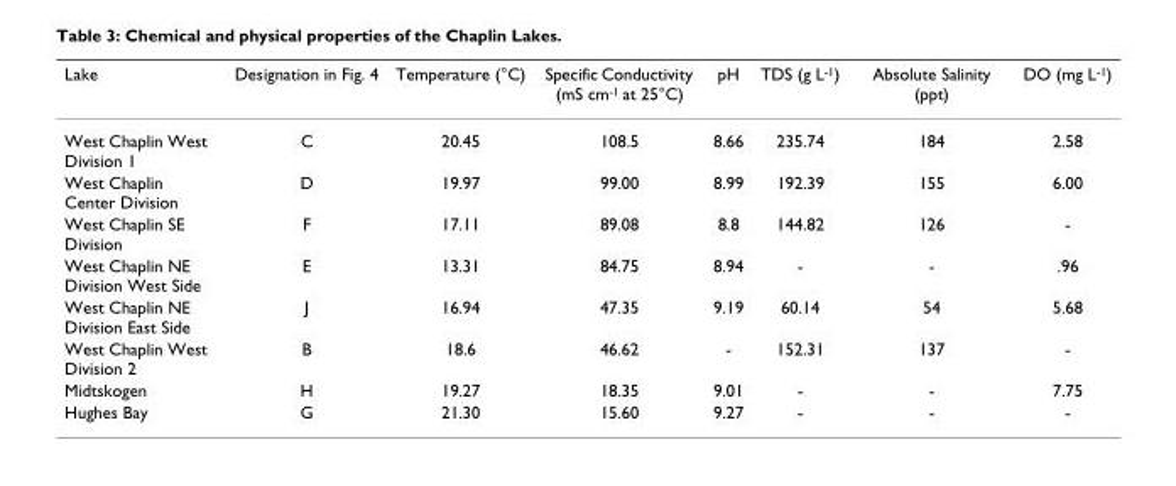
<table><thead><tr><td>Lake</td><td>Designation in Fig. 4</td><td>Temperature (°C)</td><td>Specific Conductivity (mS cm<sup>-1</sup> at 25°C)</td><td>pH</td><td>TDS (g L<sup>-1</sup>)</td><td>Absolute Salinity (ppt)</td><td>DO (mg L<sup>-1</sup>)</td></tr></thead><tbody><tr><td>West Chaplin West Division 1</td><td>C</td><td>20.45</td><td>108.5</td><td>8.66</td><td>235.74</td><td>184</td><td>2.58</td></tr><tr><td>West Chaplin Center Division</td><td>D</td><td>19.97</td><td>99.00</td><td>8.99</td><td>192.39</td><td>155</td><td>6.00</td></tr><tr><td>West Chaplin SE Division</td><td>F</td><td>17.11</td><td>89.08</td><td>8.8</td><td>144.82</td><td>126</td><td>-</td></tr><tr><td>West Chaplin NE Division West Side</td><td>E</td><td>13.31</td><td>84.75</td><td>8.94</td><td>-</td><td>-</td><td>.96</td></tr><tr><td>West Chaplin NE Division East Side</td><td>J</td><td>16.94</td><td>47.35</td><td>9.19</td><td>60.14</td><td>54</td><td>5.68</td></tr><tr><td>West Chaplin West Division 2</td><td>B</td><td>18.6</td><td>46.62</td><td>-</td><td>152.31</td><td>137</td><td>-</td></tr><tr><td>Midtskogen</td><td>H</td><td>19.27</td><td>18.35</td><td>9.01</td><td>-</td><td>-</td><td>7.75</td></tr><tr><td>Hughes Bay</td><td>G</td><td>21.30</td><td>15.60</td><td>9.27</td><td>-</td><td>-</td><td>-</td></tr></tbody></table>